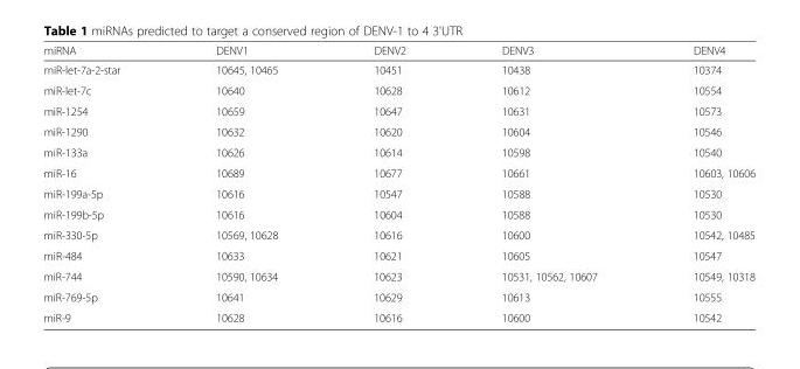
<table><thead><tr><td>miRNA</td><td>DENV1</td><td>DENV2</td><td>DENV3</td><td>DENV4</td></tr></thead><tbody><tr><td>miR-let-7a-2-star</td><td>10645, 10465</td><td>10451</td><td>10438</td><td>10374</td></tr><tr><td>miR-let-7c</td><td>10640</td><td>10628</td><td>10612</td><td>10554</td></tr><tr><td>miR-1254</td><td>10659</td><td>10647</td><td>10631</td><td>10573</td></tr><tr><td>miR-1290</td><td>10632</td><td>10620</td><td>10604</td><td>10546</td></tr><tr><td>miR-133a</td><td>10626</td><td>10614</td><td>10598</td><td>10540</td></tr><tr><td>miR-16</td><td>10689</td><td>10677</td><td>10661</td><td>10603, 10606</td></tr><tr><td>miR-199a-5p</td><td>10616</td><td>10547</td><td>10588</td><td>10530</td></tr><tr><td>miR-199b-5p</td><td>10616</td><td>10604</td><td>10588</td><td>10530</td></tr><tr><td>miR-330-5p</td><td>10569, 10628</td><td>10616</td><td>10600</td><td>10542, 10485</td></tr><tr><td>miR-484</td><td>10633</td><td>10621</td><td>10605</td><td>10547</td></tr><tr><td>miR-744</td><td>10590, 10634</td><td>10623</td><td>10531, 10562, 10607</td><td>10549, 10318</td></tr><tr><td>miR-769-5p</td><td>10641</td><td>10629</td><td>10613</td><td>10555</td></tr><tr><td>miR-9</td><td>10628</td><td>10616</td><td>10600</td><td>10542</td></tr></tbody></table>